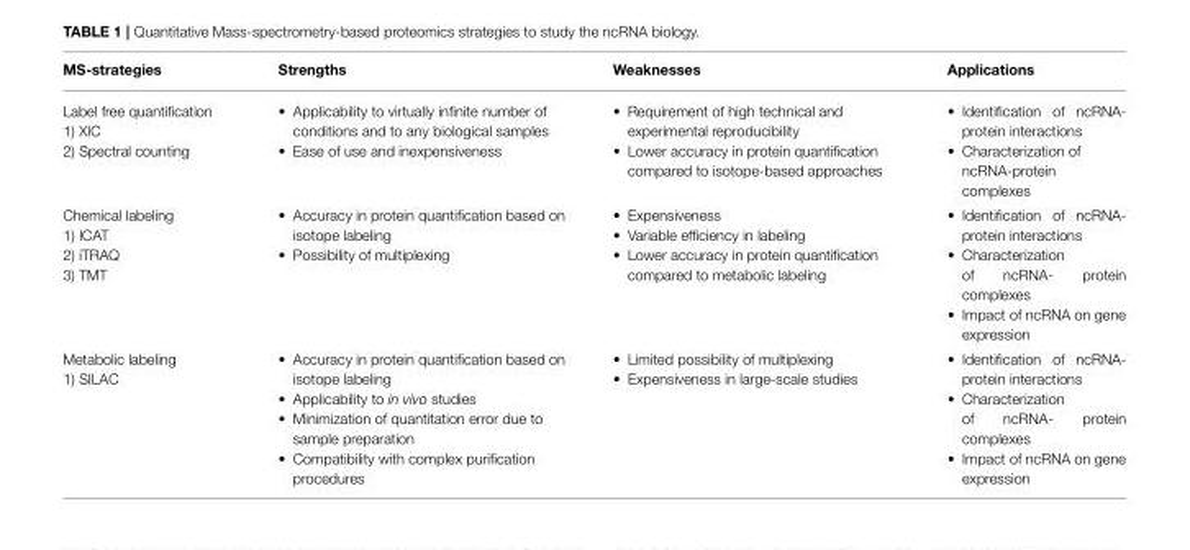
<table><thead><tr><td>MS-strategies</td><td>Strengths</td><td>Weaknesses</td><td>Applications</td></tr></thead><tbody><tr><td>Label free quantification 1) XIC 2) Spectral counting</td><td>• Applicability to virtually infinite number of conditions and to any biological samples • Ease of use and inexpensiveness</td><td>• Requirement of high technical and experimental reproducibility • Lower accuracy in protein quantification compared to isotope-based approaches</td><td>• Identification of ncRNA- protein interactions • Characterization of ncRNA-protein complexes</td></tr><tr><td>Chemical labeling 1) ICAT 2) iTRAQ 3) TMT</td><td>• Accuracy in protein quantification based on isotope labeling • Possibility of multiplexing</td><td>• Expensiveness • Variable efficiency in labeling • Lower accuracy in protein quantification compared to metabolic labeling</td><td>• Identification of ncRNA- protein interactions • Characterization of ncRNA- protein complexes • Impact of ncRNA on gene expression</td></tr><tr><td>Metabolic labeling 1) SILAC</td><td>• Accuracy in protein quantification based on isotope labeling • Applicability to in vivo studies • Minimization of quantitation error due to sample preparation • Compatibility with complex purification procedures</td><td>• Limited possibility of multiplexing • Expensiveness in large-scale studies</td><td>• Identification of ncRNA- protein interactions • Characterization of ncRNA- protein complexes • Impact of ncRNA on gene expression</td></tr></tbody></table>